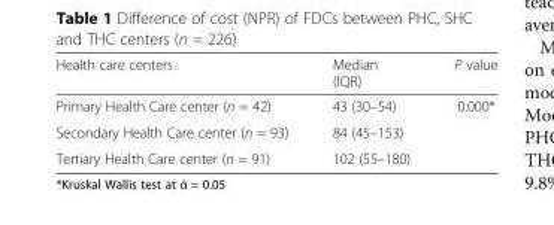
<table><thead><tr><td>Health care centers</td><td>Median (IQR)</td><td>P value</td></tr></thead><tbody><tr><td>Primary Health Care center (n = 42)</td><td>43 (30–54)</td><td rowspan="3">0.000*</td></tr><tr><td>Secondary Health Care center (n = 93)</td><td>84 (45–153)</td></tr><tr><td>Tertiary Health Care center (n = 91)</td><td>102 (55–180)</td></tr></tbody></table>